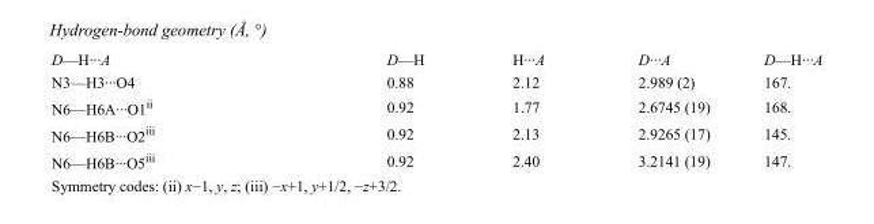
<table><tbody><tr><td>D—H···A</td><td>D—H</td><td>H···A</td><td>D···A</td><td>D—H···A</td></tr><tr><td>N3—H3···O4</td><td>0.88</td><td>2.12</td><td>2.989 (2)</td><td>167.</td></tr><tr><td>N6—H6A···O1<sup>ii</sup></td><td>0.92</td><td>1.77</td><td>2.6745 (19)</td><td>168.</td></tr><tr><td>N6—H6B···O2<sup>iii</sup></td><td>0.92</td><td>2.13</td><td>2.9265 (17)</td><td>145.</td></tr><tr><td>N6—H6B···O5<sup>iii</sup></td><td>0.92</td><td>2.40</td><td>3.2141 (19)</td><td>147.</td></tr></tbody></table>